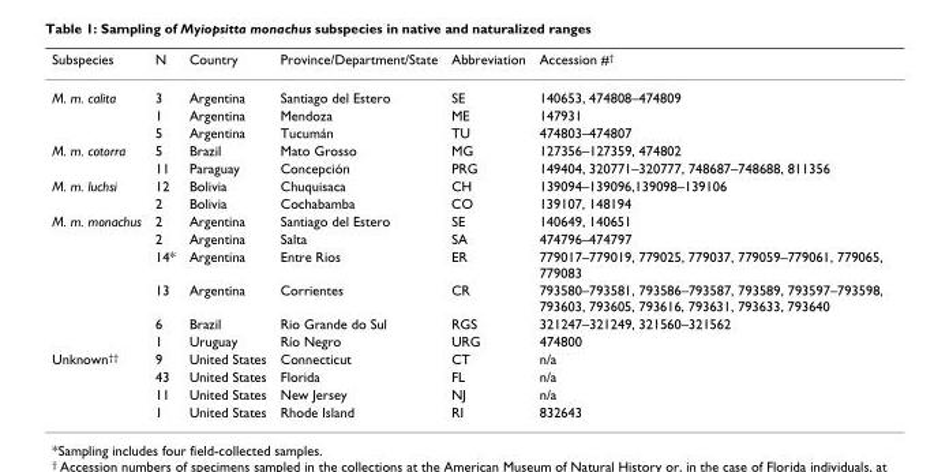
<table><thead><tr><td>Subspecies</td><td>N</td><td>Country</td><td>Province/Department/State</td><td>Abbreviation</td><td>Accession #<sup>†</sup></td></tr></thead><tbody><tr><td rowspan="3">M. m. calita</td><td>3</td><td>Argentina</td><td>Santiago del Estero</td><td>SE</td><td>140653, 474808–474809</td></tr><tr><td>1</td><td>Argentina</td><td>Mendoza</td><td>ME</td><td>147931</td></tr><tr><td>5</td><td>Argentina</td><td>Tucumán</td><td>TU</td><td>474803–474807</td></tr><tr><td rowspan="2">M. m. cotorra</td><td>5</td><td>Brazil</td><td>Mato Grosso</td><td>MG</td><td>127356–127359, 474802</td></tr><tr><td>11</td><td>Paraguay</td><td>Concepción</td><td>PRG</td><td>149404, 320771–320777, 748687–748688, 811356</td></tr><tr><td rowspan="2">M. m. luchsi</td><td>12</td><td>Bolivia</td><td>Chuquisaca</td><td>CH</td><td>139094–139096,139098–139106</td></tr><tr><td>2</td><td>Bolivia</td><td>Cochabamba</td><td>CO</td><td>139107, 148194</td></tr><tr><td rowspan="6">M. m. monachus</td><td>2</td><td>Argentina</td><td>Santiago del Estero</td><td>SE</td><td>140649, 140651</td></tr><tr><td>2</td><td>Argentina</td><td>Salta</td><td>SA</td><td>474796–474797</td></tr><tr><td>14*</td><td>Argentina</td><td>Entre Rios</td><td>ER</td><td>779017–779019, 779025, 779037, 779059–779061, 779065, 779083</td></tr><tr><td>13</td><td>Argentina</td><td>Corrientes</td><td>CR</td><td>793580–793581, 793586–793587, 793589, 793597–793598, 793603, 793605, 793616, 793631, 793633, 793640</td></tr><tr><td>6</td><td>Brazil</td><td>Rio Grande do Sul</td><td>RGS</td><td>321247–321249, 321560–321562</td></tr><tr><td>1</td><td>Uruguay</td><td>Río Negro</td><td>URG</td><td>474800</td></tr><tr><td rowspan="4">Unknown<sup>††</sup></td><td>9</td><td>United States</td><td>Connecticut</td><td>CT</td><td>n/a</td></tr><tr><td>43</td><td>United States</td><td>Florida</td><td>FL</td><td>n/a</td></tr><tr><td>11</td><td>United States</td><td>New Jersey</td><td>NJ</td><td>n/a</td></tr><tr><td>1</td><td>United States</td><td>Rhode Island</td><td>RI</td><td>832643</td></tr></tbody></table>